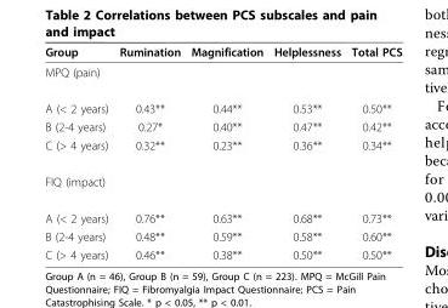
<table><thead><tr><td>Group</td><td>Rumination</td><td>Magnification</td><td>Helplessness</td><td>Total PCS</td></tr></thead><tbody><tr><td colspan="5">MPQ (pain)</td></tr><tr><td>A (&lt; 2 years)</td><td>0.43**</td><td>0.44**</td><td>0.53**</td><td>0.50**</td></tr><tr><td>B (2-4 years)</td><td>0.27*</td><td>0.40**</td><td>0.47**</td><td>0.42**</td></tr><tr><td>C (&gt; 4 years)</td><td>0.32**</td><td>0.23**</td><td>0.36**</td><td>0.34**</td></tr><tr><td colspan="5">FIQ (impact)</td></tr><tr><td>A (&lt; 2 years)</td><td>0.76**</td><td>0.63**</td><td>0.68**</td><td>0.73**</td></tr><tr><td>B (2-4 years)</td><td>0.48**</td><td>0.59**</td><td>0.58**</td><td>0.60**</td></tr><tr><td>C (&gt; 4 years)</td><td>0.46**</td><td>0.38**</td><td>0.50**</td><td>0.50**</td></tr></tbody></table>